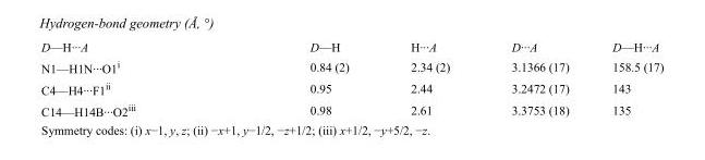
<table><tbody><tr><td>D—H···A</td><td>D—H</td><td>H···A</td><td>D···A</td><td>D—H···A</td></tr><tr><td>N1—H1N···O1<sup>i</sup></td><td>0.84 (2)</td><td>2.34 (2)</td><td>3.1366 (17)</td><td>158.5 (17)</td></tr><tr><td>C4—H4···F1<sup>ii</sup></td><td>0.95</td><td>2.44</td><td>3.2472 (17)</td><td>143</td></tr><tr><td>C14—H14B···O2<sup>iii</sup></td><td>0.98</td><td>2.61</td><td>3.3753 (18)</td><td>135</td></tr></tbody></table>